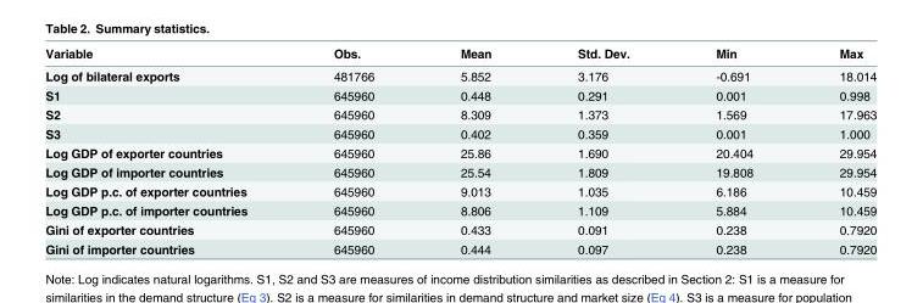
<table><thead><tr><td>Variable</td><td>Obs.</td><td>Mean</td><td>Std. Dev.</td><td>Min</td><td>Max</td></tr></thead><tbody><tr><td>Log of bilateral exports</td><td>481766</td><td>5.852</td><td>3.176</td><td>-0.691</td><td>18.014</td></tr><tr><td>S1</td><td>645960</td><td>0.448</td><td>0.291</td><td>0.001</td><td>0.998</td></tr><tr><td>S2</td><td>645960</td><td>8.309</td><td>1.373</td><td>1.569</td><td>17.963</td></tr><tr><td>S3</td><td>645960</td><td>0.402</td><td>0.359</td><td>0.001</td><td>1.000</td></tr><tr><td>Log GDP of exporter countries</td><td>645960</td><td>25.86</td><td>1.690</td><td>20.404</td><td>29.954</td></tr><tr><td>Log GDP of importer countries</td><td>645960</td><td>25.54</td><td>1.809</td><td>19.808</td><td>29.954</td></tr><tr><td>Log GDP p.c. of exporter countries</td><td>645960</td><td>9.013</td><td>1.035</td><td>6.186</td><td>10.459</td></tr><tr><td>Log GDP p.c. of importer countries</td><td>645960</td><td>8.806</td><td>1.109</td><td>5.884</td><td>10.459</td></tr><tr><td>Gini of exporter countries</td><td>645960</td><td>0.433</td><td>0.091</td><td>0.238</td><td>0.7920</td></tr><tr><td>Gini of importer countries</td><td>645960</td><td>0.444</td><td>0.097</td><td>0.238</td><td>0.7920</td></tr></tbody></table>